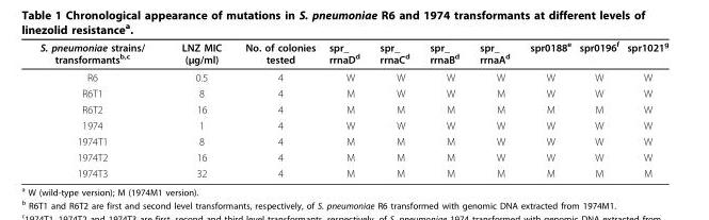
<table><thead><tr><td>S. pneumoniae strains/ transformants<sup>b,c</sup></td><td>LNZ MIC (μg/ml)</td><td>No. of colonies tested</td><td>spr_ rrnaD<sup>d</sup></td><td>spr_ rrnaC<sup>d</sup></td><td>spr_ rrnaB<sup>d</sup></td><td>spr_ rrnaA<sup>d</sup></td><td>spr0188<sup>e</sup></td><td>spr0196<sup>f</sup></td><td>spr1021<sup>g</sup></td></tr></thead><tbody><tr><td>R6</td><td>0.5</td><td>4</td><td>W</td><td>W</td><td>W</td><td>W</td><td>W</td><td>W</td><td>W</td></tr><tr><td>R6T1</td><td>8</td><td>4</td><td>M</td><td>W</td><td>W</td><td>M</td><td>W</td><td>W</td><td>W</td></tr><tr><td>R6T2</td><td>16</td><td>4</td><td>M</td><td>M</td><td>M</td><td>M</td><td>M</td><td>M</td><td>W</td></tr><tr><td>1974</td><td>1</td><td>4</td><td>W</td><td>W</td><td>W</td><td>W</td><td>W</td><td>W</td><td>W</td></tr><tr><td>1974T1</td><td>8</td><td>4</td><td>M</td><td>M</td><td>M</td><td>W</td><td>W</td><td>W</td><td>W</td></tr><tr><td>1974T2</td><td>16</td><td>4</td><td>M</td><td>M</td><td>M</td><td>W</td><td>W</td><td>W</td><td>W</td></tr><tr><td>1974T3</td><td>32</td><td>4</td><td>M</td><td>M</td><td>M</td><td>M</td><td>M</td><td>M</td><td>M</td></tr></tbody></table>